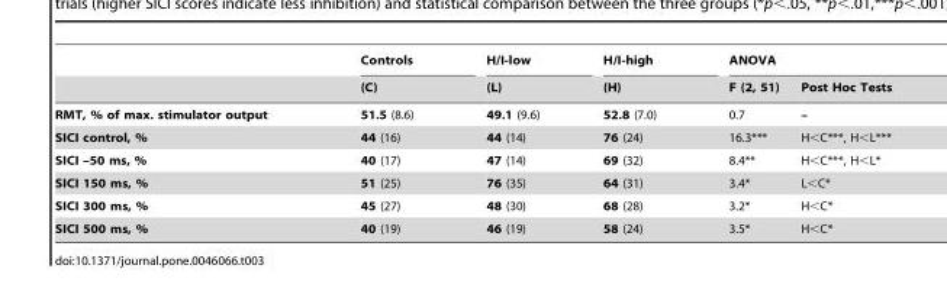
<table><thead><tr><td rowspan="2"></td><td rowspan="2">Controls (C)</td><td rowspan="2">H/I-low (L)</td><td rowspan="2">H/I-high (H)</td><td colspan="2">ANOVA</td></tr><tr><td>F (2, 51)</td><td>Post Hoc Tests</td></tr></thead><tbody><tr><td>RMT, % of max. stimulator output</td><td>51.5 (8.6)</td><td>49.1 (9.6)</td><td>52.8 (7.0)</td><td>0.7</td><td>–</td></tr><tr><td>SICI control, %</td><td>44 (16)</td><td>44 (14)</td><td>76 (24)</td><td>16.3***</td><td>H&lt;C***, H&lt;L***</td></tr><tr><td>SICI –50 ms, %</td><td>40 (17)</td><td>47 (14)</td><td>69 (32)</td><td>8.4**</td><td>H&lt;C***, H&lt;L*</td></tr><tr><td>SICI 150 ms, %</td><td>51 (25)</td><td>76 (35)</td><td>64 (31)</td><td>3.4*</td><td>L&lt;C*</td></tr><tr><td>SICI 300 ms, %</td><td>45 (27)</td><td>48 (30)</td><td>68 (28)</td><td>3.2*</td><td>H&lt;C*</td></tr><tr><td>SICI 500 ms, %</td><td>40 (19)</td><td>46 (19)</td><td>58 (24)</td><td>3.5*</td><td>H&lt;C*</td></tr></tbody></table>